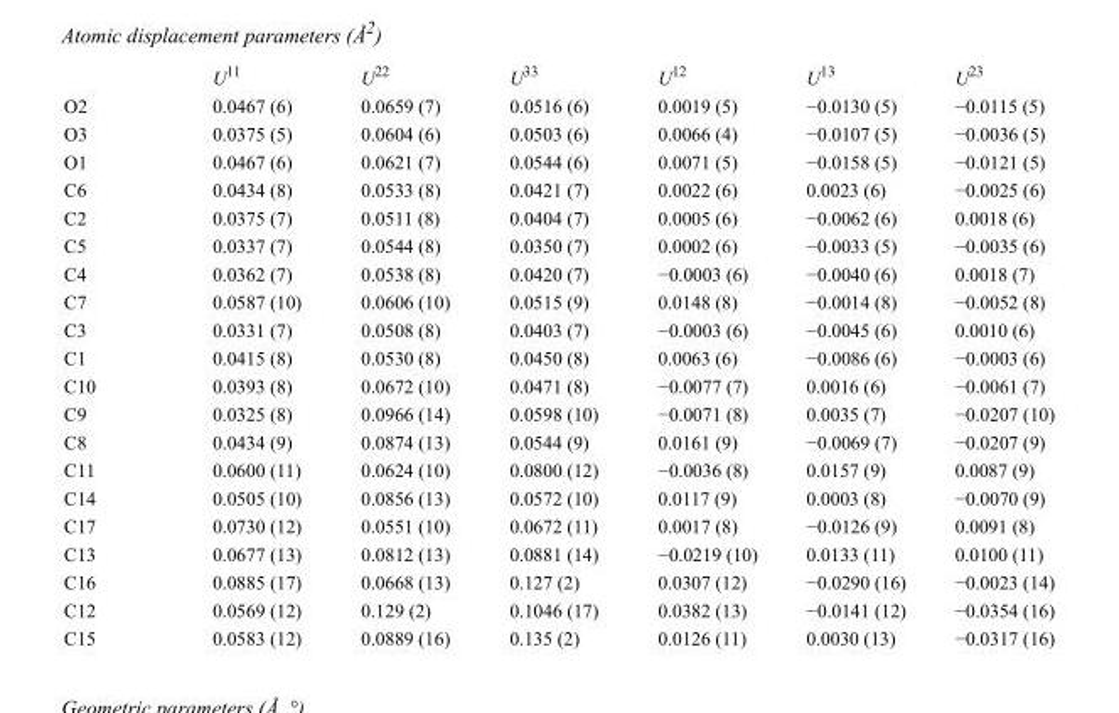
<table><thead><tr><td></td><td>U<sup>11</sup></td><td>U<sup>22</sup></td><td>U<sup>33</sup></td><td>U<sup>12</sup></td><td>U<sup>13</sup></td><td>U<sup>23</sup></td></tr></thead><tbody><tr><td>O2</td><td>0.0467 (6)</td><td>0.0659 (7)</td><td>0.0516 (6)</td><td>0.0019 (5)</td><td>−0.0130 (5)</td><td>−0.0115 (5)</td></tr><tr><td>O3</td><td>0.0375 (5)</td><td>0.0604 (6)</td><td>0.0503 (6)</td><td>0.0066 (4)</td><td>−0.0107 (5)</td><td>−0.0036 (5)</td></tr><tr><td>O1</td><td>0.0467 (6)</td><td>0.0621 (7)</td><td>0.0544 (6)</td><td>0.0071 (5)</td><td>−0.0158 (5)</td><td>−0.0121 (5)</td></tr><tr><td>C6</td><td>0.0434 (8)</td><td>0.0533 (8)</td><td>0.0421 (7)</td><td>0.0022 (6)</td><td>0.0023 (6)</td><td>−0.0025 (6)</td></tr><tr><td>C2</td><td>0.0375 (7)</td><td>0.0511 (8)</td><td>0.0404 (7)</td><td>0.0005 (6)</td><td>−0.0062 (6)</td><td>0.0018 (6)</td></tr><tr><td>C5</td><td>0.0337 (7)</td><td>0.0544 (8)</td><td>0.0350 (7)</td><td>0.0002 (6)</td><td>−0.0033 (5)</td><td>−0.0035 (6)</td></tr><tr><td>C4</td><td>0.0362 (7)</td><td>0.0538 (8)</td><td>0.0420 (7)</td><td>−0.0003 (6)</td><td>−0.0040 (6)</td><td>0.0018 (7)</td></tr><tr><td>C7</td><td>0.0587 (10)</td><td>0.0606 (10)</td><td>0.0515 (9)</td><td>0.0148 (8)</td><td>−0.0014 (8)</td><td>−0.0052 (8)</td></tr><tr><td>C3</td><td>0.0331 (7)</td><td>0.0508 (8)</td><td>0.0403 (7)</td><td>−0.0003 (6)</td><td>−0.0045 (6)</td><td>0.0010 (6)</td></tr><tr><td>C1</td><td>0.0415 (8)</td><td>0.0530 (8)</td><td>0.0450 (8)</td><td>0.0063 (6)</td><td>−0.0086 (6)</td><td>−0.0003 (6)</td></tr><tr><td>C10</td><td>0.0393 (8)</td><td>0.0672 (10)</td><td>0.0471 (8)</td><td>−0.0077 (7)</td><td>0.0016 (6)</td><td>−0.0061 (7)</td></tr><tr><td>C9</td><td>0.0325 (8)</td><td>0.0966 (14)</td><td>0.0598 (10)</td><td>−0.0071 (8)</td><td>0.0035 (7)</td><td>−0.0207 (10)</td></tr><tr><td>C8</td><td>0.0434 (9)</td><td>0.0874 (13)</td><td>0.0544 (9)</td><td>0.0161 (9)</td><td>−0.0069 (7)</td><td>−0.0207 (9)</td></tr><tr><td>C11</td><td>0.0600 (11)</td><td>0.0624 (10)</td><td>0.0800 (12)</td><td>−0.0036 (8)</td><td>0.0157 (9)</td><td>0.0087 (9)</td></tr><tr><td>C14</td><td>0.0505 (10)</td><td>0.0856 (13)</td><td>0.0572 (10)</td><td>0.0117 (9)</td><td>0.0003 (8)</td><td>−0.0070 (9)</td></tr><tr><td>C17</td><td>0.0730 (12)</td><td>0.0551 (10)</td><td>0.0672 (11)</td><td>0.0017 (8)</td><td>−0.0126 (9)</td><td>0.0091 (8)</td></tr><tr><td>C13</td><td>0.0677 (13)</td><td>0.0812 (13)</td><td>0.0881 (14)</td><td>−0.0219 (10)</td><td>0.0133 (11)</td><td>0.0100 (11)</td></tr><tr><td>C16</td><td>0.0885 (17)</td><td>0.0668 (13)</td><td>0.127 (2)</td><td>0.0307 (12)</td><td>−0.0290 (16)</td><td>−0.0023 (14)</td></tr><tr><td>C12</td><td>0.0569 (12)</td><td>0.129 (2)</td><td>0.1046 (17)</td><td>0.0382 (13)</td><td>−0.0141 (12)</td><td>−0.0354 (16)</td></tr><tr><td>C15</td><td>0.0583 (12)</td><td>0.0889 (16)</td><td>0.135 (2)</td><td>0.0126 (11)</td><td>0.0030 (13)</td><td>−0.0317 (16)</td></tr></tbody></table>